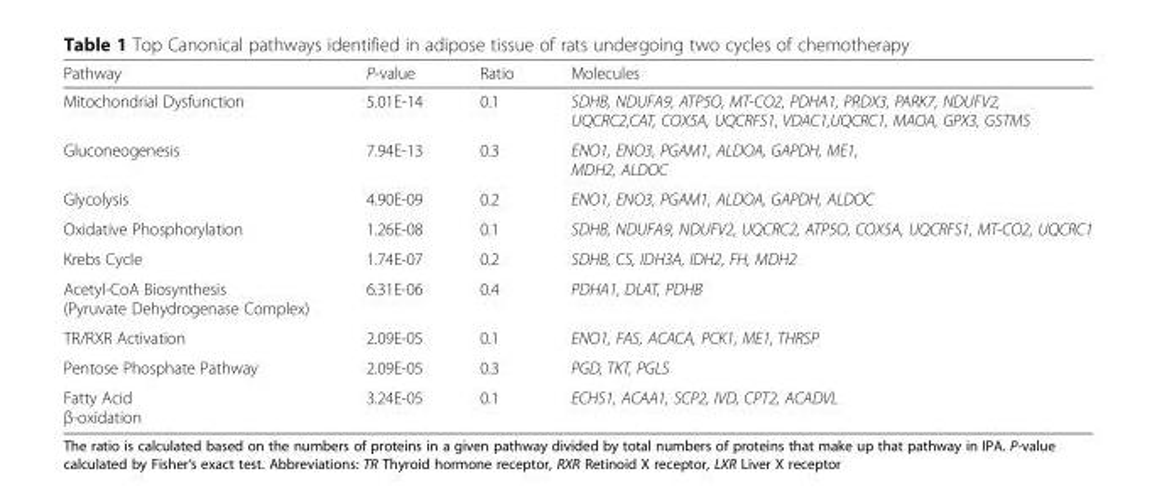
<table><thead><tr><td>Pathway</td><td>P-value</td><td>Ratio</td><td>Molecules</td></tr></thead><tbody><tr><td>Mitochondrial Dysfunction</td><td>5.01E-14</td><td>0.1</td><td>SDHB, NDUFA9, ATP5O, MT-CO2, PDHA1, PRDX3, PARK7, NDUFV2, UQCRC2,CAT, COX5A, UQCRFS1, VDAC1,UQCRC1, MAOA, GPX3, GSTMS</td></tr><tr><td>Gluconeogenesis</td><td>7.94E-13</td><td>0.3</td><td>ENO1, ENO3, PGAM1, ALDOA, GAPDH, ME1, MDH2, ALDOC</td></tr><tr><td>Glycolysis</td><td>4.90E-09</td><td>0.2</td><td>ENO1, ENO3, PGAM1, ALDOA, GAPDH, ALDOC</td></tr><tr><td>Oxidative Phosphorylation</td><td>1.26E-08</td><td>0.1</td><td>SDHB, NDUFA9, NDUFV2, UQCRC2, ATP5O, COX5A, UQCRFS1, MT-CO2, UQCRC1</td></tr><tr><td>Krebs Cycle</td><td>1.74E-07</td><td>0.2</td><td>SDHB, CS, IDH3A, IDH2, FH, MDH2</td></tr><tr><td>Acetyl-CoA Biosynthesis (Pyruvate Dehydrogenase Complex)</td><td>6.31E-06</td><td>0.4</td><td>PDHA1, DLAT, PDHB</td></tr><tr><td>TR/RXR Activation</td><td>2.09E-05</td><td>0.1</td><td>ENO1, FAS, ACACA, PCK1, ME1, THRSP</td></tr><tr><td>Pentose Phosphate Pathway</td><td>2.09E-05</td><td>0.3</td><td>PGD, TKT, PGLS</td></tr><tr><td>Fatty Acid β-oxidation</td><td>3.24E-05</td><td>0.1</td><td>ECHS1, ACAA1, SCP2, IVD, CPT2, ACADVL</td></tr></tbody></table>